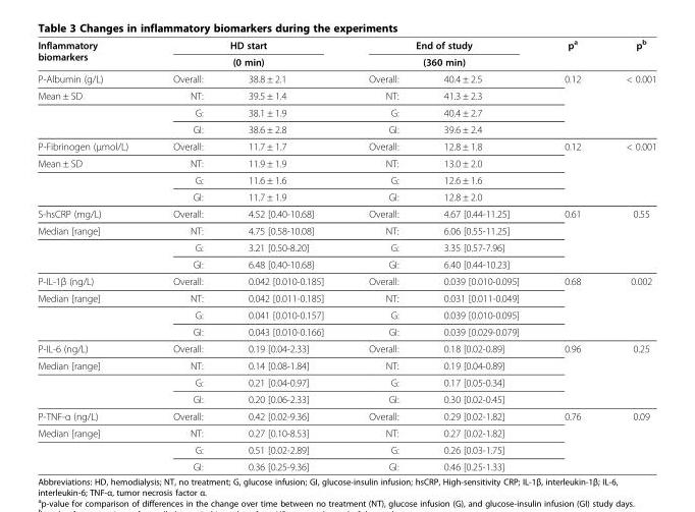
<table><thead><tr><td rowspan="3">Inflammatory biomarkers P-Albumin (g/L)</td><td rowspan="2" colspan="2">HD start (0 min)</td><td rowspan="2" colspan="2">End of study (360 min)</td><td rowspan="3">p<sup>a</sup> 0.12</td><td rowspan="3">p<sup>b</sup> &lt; 0.001</td></tr><tr></tr><tr><td>Overall:</td><td>38.8 ± 2.1</td><td>Overall:</td><td>40.4 ± 2.5</td></tr></thead><tbody><tr><td rowspan="3">Mean ± SD</td><td>NT:</td><td>39.5 ± 1.4</td><td>NT:</td><td>41.3 ± 2.3</td><td></td><td></td></tr><tr><td>G:</td><td>38.1 ± 1.9</td><td>G:</td><td>40.4 ± 2.7</td><td></td><td></td></tr><tr><td>GI:</td><td>38.6 ± 2.8</td><td>GI:</td><td>39.6 ± 2.4</td><td></td><td></td></tr><tr><td>P-Fibrinogen (μmol/L)</td><td>Overall:</td><td>11.7 ± 1.7</td><td>Overall:</td><td>12.8 ± 1.8</td><td rowspan="4">0.12</td><td rowspan="4">&lt; 0.001</td></tr><tr><td rowspan="3">Mean ± SD</td><td>NT:</td><td>11.9 ± 1.9</td><td>NT:</td><td>13.0 ± 2.0</td></tr><tr><td>G:</td><td>11.6 ± 1.6</td><td>G:</td><td>12.6 ± 1.6</td></tr><tr><td>GI:</td><td>11.7 ± 1.9</td><td>GI:</td><td>12.8 ± 2.0</td></tr><tr><td>S-hsCRP (mg/L)</td><td>Overall:</td><td>4.52 [0.40-10.68]</td><td>Overall:</td><td>4.67 [0.44-11.25]</td><td rowspan="4">0.61</td><td rowspan="4">0.55</td></tr><tr><td rowspan="3">Median [range]</td><td>NT:</td><td>4.75 [0.58-10.08]</td><td>NT:</td><td>6.06 [0.55-11.25]</td></tr><tr><td>G:</td><td>3.21 [0.50-8.20]</td><td>G:</td><td>3.35 [0.57-7.96]</td></tr><tr><td>GI:</td><td>6.48 [0.40-10.68]</td><td>GI:</td><td>6.40 [0.44-10.23]</td></tr><tr><td>P-IL-1β (ng/L)</td><td>Overall:</td><td>0.042 [0.010-0.185]</td><td>Overall:</td><td>0.039 [0.010-0.095]</td><td rowspan="4">0.68</td><td rowspan="4">0.002</td></tr><tr><td rowspan="3">Median [range]</td><td>NT:</td><td>0.042 [0.011-0.185]</td><td>NT:</td><td>0.031 [0.011-0.049]</td></tr><tr><td>G:</td><td>0.041 [0.010-0.157]</td><td>G:</td><td>0.039 [0.010-0.095]</td></tr><tr><td>GI:</td><td>0.043 [0.010-0.166]</td><td>GI:</td><td>0.039 [0.029-0.079]</td></tr><tr><td>P-IL-6 (ng/L)</td><td>Overall:</td><td>0.19 [0.04-2.33]</td><td>Overall:</td><td>0.18 [0.02-0.89]</td><td rowspan="4">0.96</td><td rowspan="4">0.25</td></tr><tr><td rowspan="3">Median [range]</td><td>NT:</td><td>0.14 [0.08-1.84]</td><td>NT:</td><td>0.19 [0.04-0.89]</td></tr><tr><td>G:</td><td>0.21 [0.04-0.97]</td><td>G:</td><td>0.17 [0.05-0.34]</td></tr><tr><td>GI:</td><td>0.20 [0.06-2.33]</td><td>GI:</td><td>0.30 [0.02-0.45]</td></tr><tr><td>P-TNF-α (ng/L)</td><td>Overall:</td><td>0.42 [0.02-9.36]</td><td>Overall:</td><td>0.29 [0.02-1.82]</td><td rowspan="4">0.76</td><td rowspan="4">0.09</td></tr><tr><td rowspan="3">Median [range]</td><td>NT:</td><td>0.27 [0.10-8.53]</td><td>NT:</td><td>0.27 [0.02-1.82]</td></tr><tr><td>G:</td><td>0.51 [0.02-2.89]</td><td>G:</td><td>0.26 [0.03-1.75]</td></tr><tr><td>GI:</td><td>0.36 [0.25-9.36]</td><td>GI:</td><td>0.46 [0.25-1.33]</td></tr></tbody></table>